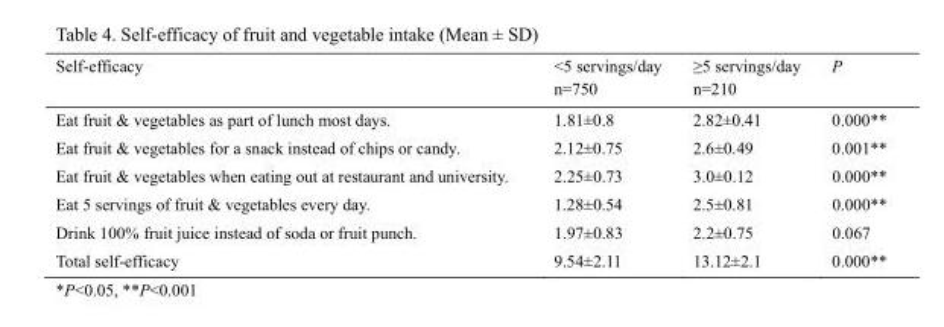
<table><thead><tr><td>Self-efficacy</td><td>&lt;5 servings/day n=750</td><td>≥5 servings/day n=210</td><td>P</td></tr></thead><tbody><tr><td>Eat fruit &amp; vegetables as part of lunch most days.</td><td>1.81±0.8</td><td>2.82±0.41</td><td>0.000**</td></tr><tr><td>Eat fruit &amp; vegetables for a snack instead of chips or candy.</td><td>2.12±0.75</td><td>2.6±0.49</td><td>0.001**</td></tr><tr><td>Eat fruit &amp; vegetables when eating out at restaurant and university.</td><td>2.25±0.73</td><td>3.0±0.12</td><td>0.000**</td></tr><tr><td>Eat 5 servings of fruit &amp; vegetables every day.</td><td>1.28±0.54</td><td>2.5±0.81</td><td>0.000**</td></tr><tr><td>Drink 100% fruit juice instead of soda or fruit punch.</td><td>1.97±0.83</td><td>2.2±0.75</td><td>0.067</td></tr><tr><td>Total self-efficacy</td><td>9.54±2.11</td><td>13.12±2.1</td><td>0.000**</td></tr></tbody></table>